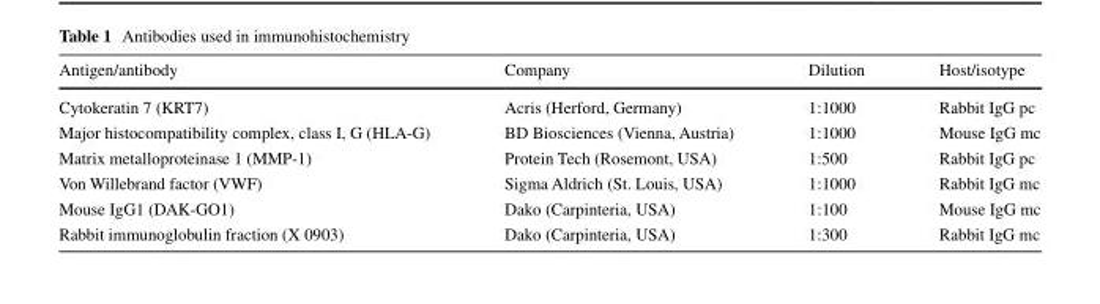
<table><thead><tr><td>Antigen/antibody</td><td>Company</td><td>Dilution</td><td>Host/isotype</td></tr></thead><tbody><tr><td>Cytokeratin 7 (KRT7)</td><td>Acris (Herford, Germany)</td><td>1:1000</td><td>Rabbit IgG pc</td></tr><tr><td>Major histocompatibility complex, class I, G (HLA-G)</td><td>BD Biosciences (Vienna, Austria)</td><td>1:1000</td><td>Mouse IgG mc</td></tr><tr><td>Matrix metalloproteinase 1 (MMP-1)</td><td>Protein Tech (Rosemont, USA)</td><td>1:500</td><td>Rabbit IgG pc</td></tr><tr><td>Von Willebrand factor (VWF)</td><td>Sigma Aldrich (St. Louis, USA)</td><td>1:1000</td><td>Rabbit IgG mc</td></tr><tr><td>Mouse IgG1 (DAK-GO1)</td><td>Dako (Carpinteria, USA)</td><td>1:100</td><td>Mouse IgG mc</td></tr><tr><td>Rabbit immunoglobulin fraction (X 0903)</td><td>Dako (Carpinteria, USA)</td><td>1:300</td><td>Rabbit IgG mc</td></tr></tbody></table>